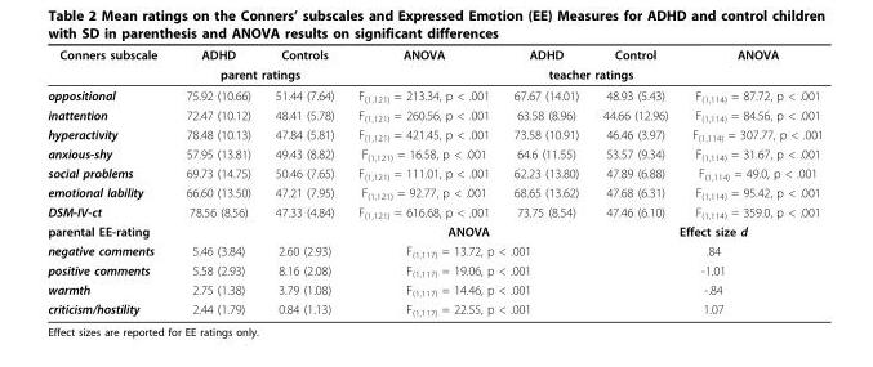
<table><thead><tr><td rowspan="2">Conners subscale</td><td>ADHD</td><td>Controls</td><td rowspan="2">ANOVA</td><td>ADHD</td><td>Control</td><td rowspan="2">ANOVA</td></tr><tr><td colspan="2">parent ratings</td><td colspan="2">teacher ratings</td></tr></thead><tbody><tr><td>oppositional</td><td>75.92 (10.66)</td><td>51.44 (7.64)</td><td>F<sub>(1,121)</sub> = 213.34, p &lt; .001</td><td>67.67 (14.01)</td><td>48.93 (5.43)</td><td>F<sub>(1,114)</sub> = 87.72, p &lt; .001</td></tr><tr><td>inattention</td><td>72.47 (10.12)</td><td>48.41 (5.78)</td><td>F<sub>(1,121)</sub> = 260.56, p &lt; .001</td><td>63.58 (8.96)</td><td>44.66 (12.96)</td><td>F<sub>(1,114)</sub> = 84.56, p &lt; .001</td></tr><tr><td>hyperactivity</td><td>78.48 (10.13)</td><td>47.84 (5.81)</td><td>F<sub>(1,121)</sub> = 421.45, p &lt; .001</td><td>73.58 (10.91)</td><td>46.46 (3.97)</td><td>F<sub>(1,114)</sub> = 307.77, p &lt; .001</td></tr><tr><td>anxious-shy</td><td>57.95 (13.81)</td><td>49.43 (8.82)</td><td>F<sub>(1,121)</sub> = 16.58, p &lt; .001</td><td>64.6 (11.55)</td><td>53.57 (9.34)</td><td>F<sub>(1,114)</sub> = 31.67, p &lt; .001</td></tr><tr><td>social problems</td><td>69.73 (14.75)</td><td>50.46 (7.65)</td><td>F<sub>(1,121)</sub> = 111.01, p &lt; .001</td><td>62.23 (13.80)</td><td>47.89 (6.88)</td><td>F<sub>(1,114)</sub> = 49.0, p &lt; .001</td></tr><tr><td>emotional lability</td><td>66.60 (13.50)</td><td>47.21 (7.95)</td><td>F<sub>(1,121)</sub> = 92.77, p &lt; .001</td><td>68.65 (13.62)</td><td>47.68 (6.31)</td><td>F<sub>(1,114)</sub> = 95.42, p &lt; .001</td></tr><tr><td>DSM-IV-ct</td><td>78.56 (8.56)</td><td>47.33 (4.84)</td><td>F<sub>(1,121)</sub> = 616.68, p &lt; .001</td><td>73.75 (8.54)</td><td>47.46 (6.10)</td><td>F<sub>(1,114)</sub> = 359.0, p &lt; .001</td></tr><tr><td colspan="3">parental EE-rating</td><td colspan="2">ANOVA</td><td colspan="2">Effect size d</td></tr><tr><td>negative comments</td><td>5.46 (3.84)</td><td>2.60 (2.93)</td><td colspan="2">F<sub>(1,117)</sub> = 13.72, p &lt; .001</td><td colspan="2">.84</td></tr><tr><td>positive comments</td><td>5.58 (2.93)</td><td>8.16 (2.08)</td><td colspan="2">F<sub>(1,117)</sub> = 19.06, p &lt; .001</td><td colspan="2">-1.01</td></tr><tr><td>warmth</td><td>2.75 (1.38)</td><td>3.79 (1.08)</td><td colspan="2">F<sub>(1,117)</sub> = 14.46, p &lt; .001</td><td colspan="2">-.84</td></tr><tr><td>criticism/hostility</td><td>2.44 (1.79)</td><td>0.84 (1.13)</td><td colspan="2">F<sub>(1,117)</sub> = 22.55, p &lt; .001</td><td colspan="2">1.07</td></tr></tbody></table>